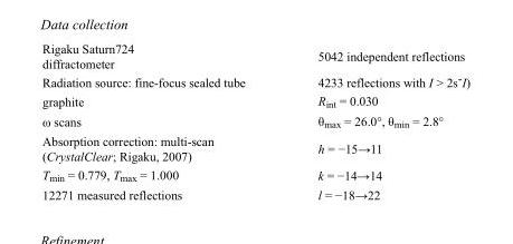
<table><tbody><tr><td>Rigaku Saturn724 diffractometer</td><td>5042 independent reflections</td></tr><tr><td>Radiation source: fine-focus sealed tube</td><td>4233 reflections with I &gt; 2s˘I)</td></tr><tr><td>graphite</td><td>R<sub>int</sub> = 0.030</td></tr><tr><td>ω scans</td><td>θ<sub>max</sub> = 26.0°, θ<sub>min</sub> = 2.8°</td></tr><tr><td>Absorption correction: multi-scan (CrystalClear; Rigaku, 2007)</td><td>h = −15→11</td></tr><tr><td>T<sub>min</sub> = 0.779, T<sub>max</sub> = 1.000</td><td>k = −14→14</td></tr><tr><td>12271 measured reflections</td><td>l = −18→22</td></tr></tbody></table>